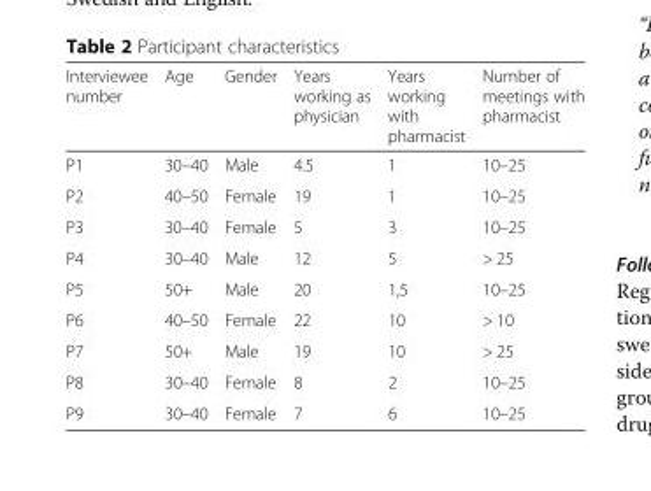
<table><thead><tr><td>Interviewee number</td><td>Age</td><td>Gender</td><td>Years working as physician</td><td>Years working with pharmacist</td><td>Number of meetings with pharmacist</td></tr></thead><tbody><tr><td>P1</td><td>30–40</td><td>Male</td><td>4.5</td><td>1</td><td>10–25</td></tr><tr><td>P2</td><td>40–50</td><td>Female</td><td>19</td><td>1</td><td>10–25</td></tr><tr><td>P3</td><td>30–40</td><td>Female</td><td>5</td><td>3</td><td>10–25</td></tr><tr><td>P4</td><td>30–40</td><td>Male</td><td>12</td><td>5</td><td>&gt; 25</td></tr><tr><td>P5</td><td>50+</td><td>Male</td><td>20</td><td>1,5</td><td>10–25</td></tr><tr><td>P6</td><td>40–50</td><td>Female</td><td>22</td><td>10</td><td>&gt; 10</td></tr><tr><td>P7</td><td>50+</td><td>Male</td><td>19</td><td>10</td><td>&gt; 25</td></tr><tr><td>P8</td><td>30–40</td><td>Female</td><td>8</td><td>2</td><td>10–25</td></tr><tr><td>P9</td><td>30–40</td><td>Female</td><td>7</td><td>6</td><td>10–25</td></tr></tbody></table>